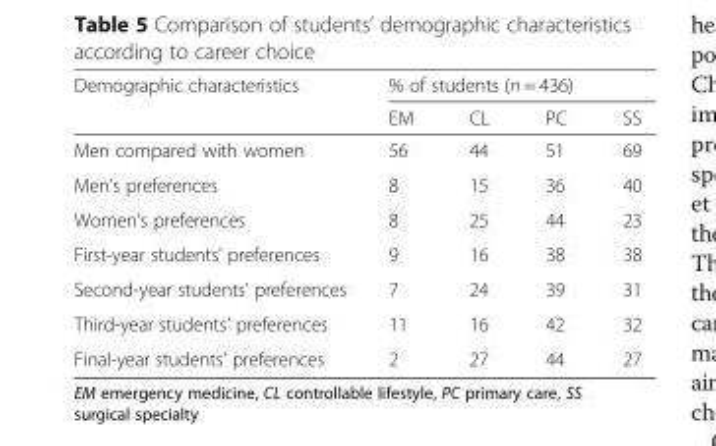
<table><thead><tr><td rowspan="2">Demographic characteristics</td><td colspan="4">% of students (n = 436)</td></tr><tr><td>EM</td><td>CL</td><td>PC</td><td>SS</td></tr></thead><tbody><tr><td>Men compared with women</td><td>56</td><td>44</td><td>51</td><td>69</td></tr><tr><td>Men’s preferences</td><td>8</td><td>15</td><td>36</td><td>40</td></tr><tr><td>Women’s preferences</td><td>8</td><td>25</td><td>44</td><td>23</td></tr><tr><td>First-year students’ preferences</td><td>9</td><td>16</td><td>38</td><td>38</td></tr><tr><td>Second-year students’ preferences</td><td>7</td><td>24</td><td>39</td><td>31</td></tr><tr><td>Third-year students’ preferences</td><td>11</td><td>16</td><td>42</td><td>32</td></tr><tr><td>Final-year students’ preferences</td><td>2</td><td>27</td><td>44</td><td>27</td></tr></tbody></table>